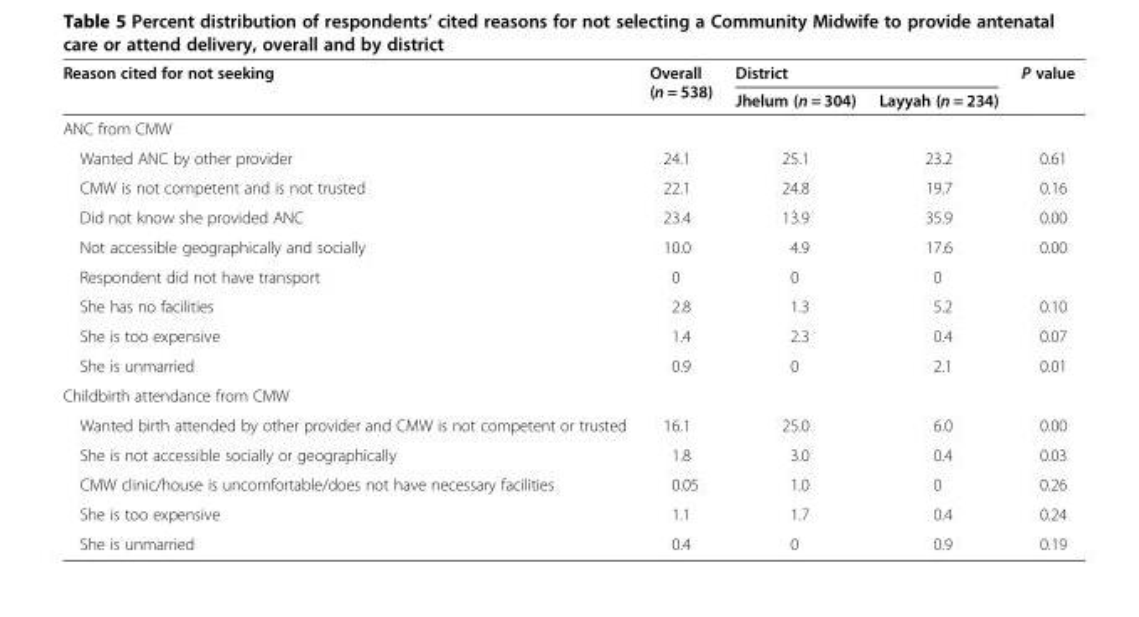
<table><thead><tr><td rowspan="2">Reason cited for not seeking</td><td rowspan="2">Overall (n = 538)</td><td colspan="2">District</td><td rowspan="2">P value</td></tr><tr><td>Jhelum (n = 304)</td><td>Layyah (n = 234)</td></tr></thead><tbody><tr><td colspan="5">ANC from CMW</td></tr><tr><td>Wanted ANC by other provider</td><td>24.1</td><td>25.1</td><td>23.2</td><td>0.61</td></tr><tr><td>CMW is not competent and is not trusted</td><td>22.1</td><td>24.8</td><td>19.7</td><td>0.16</td></tr><tr><td>Did not know she provided ANC</td><td>23.4</td><td>13.9</td><td>35.9</td><td>0.00</td></tr><tr><td>Not accessible geographically and socially</td><td>10.0</td><td>4.9</td><td>17.6</td><td>0.00</td></tr><tr><td>Respondent did not have transport</td><td>0</td><td>0</td><td>0</td><td></td></tr><tr><td>She has no facilities</td><td>2.8</td><td>1.3</td><td>5.2</td><td>0.10</td></tr><tr><td>She is too expensive</td><td>1.4</td><td>2.3</td><td>0.4</td><td>0.07</td></tr><tr><td>She is unmarried</td><td>0.9</td><td>0</td><td>2.1</td><td>0.01</td></tr><tr><td colspan="5">Childbirth attendance from CMW</td></tr><tr><td>Wanted birth attended by other provider and CMW is not competent or trusted</td><td>16.1</td><td>25.0</td><td>6.0</td><td>0.00</td></tr><tr><td>She is not accessible socially or geographically</td><td>1.8</td><td>3.0</td><td>0.4</td><td>0.03</td></tr><tr><td>CMW clinic/house is uncomfortable/does not have necessary facilities</td><td>0.05</td><td>1.0</td><td>0</td><td>0.26</td></tr><tr><td>She is too expensive</td><td>1.1</td><td>1.7</td><td>0.4</td><td>0.24</td></tr><tr><td>She is unmarried</td><td>0.4</td><td>0</td><td>0.9</td><td>0.19</td></tr></tbody></table>